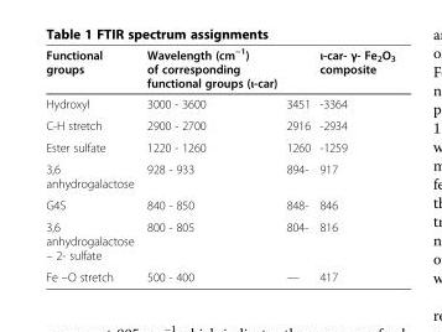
<table><thead><tr><td>Functional groups</td><td>Wavelength (cm<sup>−1</sup>) of corresponding functional groups (ι-car)</td><td></td><td>ι-car- γ- Fe<sub>2</sub>O<sub>3</sub> composite</td></tr></thead><tbody><tr><td>Hydroxyl</td><td>3000 - 3600</td><td>3451</td><td>-3364</td></tr><tr><td>C-H stretch</td><td>2900 - 2700</td><td>2916</td><td>-2934</td></tr><tr><td>Ester sulfate</td><td>1220 - 1260</td><td>1260</td><td>-1259</td></tr><tr><td>3,6 anhydrogalactose</td><td>928 - 933</td><td>894-</td><td>917</td></tr><tr><td>G4S</td><td>840 - 850</td><td>848-</td><td>846</td></tr><tr><td>3,6 anhydrogalactose – 2- sulfate</td><td>800 - 805</td><td>804-</td><td>816</td></tr><tr><td>Fe –O stretch</td><td>500 - 400</td><td>—</td><td>417</td></tr></tbody></table>